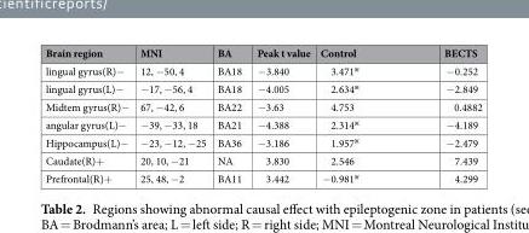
<table><thead><tr><td>Brain region</td><td>MNI</td><td>BA</td><td>Peak t value</td><td>Control</td><td>BECTS</td></tr></thead><tbody><tr><td>lingual gyrus(R)−</td><td>12, −50, 4</td><td>BA18</td><td>−3.840</td><td>3.471<sup>※</sup></td><td>−0.252</td></tr><tr><td>lingual gyrus(L)−</td><td>−17, −56, 4</td><td>BA18</td><td>−4.005</td><td>2.634<sup>※</sup></td><td>−2.849</td></tr><tr><td>Midtem gyrus(R)−</td><td>67, −42, 6</td><td>BA22</td><td>−3.63</td><td>4.753</td><td>0.4882</td></tr><tr><td>angular gyrus(L)−</td><td>−39, −33, 18</td><td>BA21</td><td>−4.388</td><td>2.314<sup>※</sup></td><td>−4.189</td></tr><tr><td>Hippocampus(L)−</td><td>−23, −12, −25</td><td>BA36</td><td>−3.186</td><td>1.957<sup>※</sup></td><td>−2.479</td></tr><tr><td>Caudate(R)+</td><td>20, 10, −21</td><td>NA</td><td>3.830</td><td>2.546</td><td>7.439</td></tr><tr><td>Prefrontal(R)+</td><td>25, 48, −2</td><td>BA11</td><td>3.442</td><td>−0.981<sup>※</sup></td><td>4.299</td></tr></tbody></table>